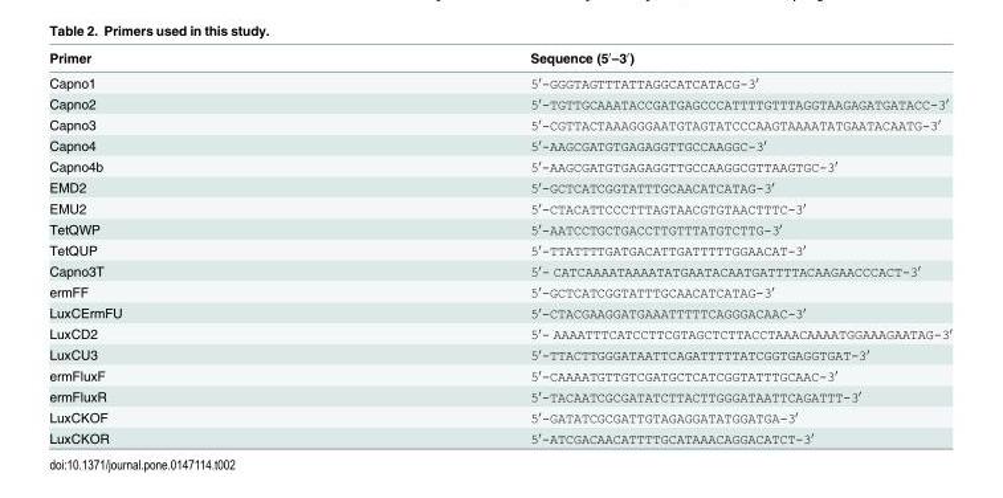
<table><thead><tr><td>Primer</td><td>Sequence (5′–3′)</td></tr></thead><tbody><tr><td>Capno1</td><td>5′-GGGTAGTTTATTAGGCATCATACG-3′</td></tr><tr><td>Capno2</td><td>5′-TGTTGCAAATACCGATGAGCCCATTTTGTTTAGGTAAGAGATGATACC-3′</td></tr><tr><td>Capno3</td><td>5′-CGTTACTAAAGGGAATGTAGTATCCCAAGTAAAATATGAATACAATG-3′</td></tr><tr><td>Capno4</td><td>5′-AAGCGATGTGAGAGGTTGCCAAGGC-3′</td></tr><tr><td>Capno4b</td><td>5′-AAGCGATGTGAGAGGTTGCCAAGGCGTTAAGTGC-3′</td></tr><tr><td>EMD2</td><td>5′-GCTCATCGGTATTTGCAACATCATAG-3′</td></tr><tr><td>EMU2</td><td>5′-CTACATTCCCTTTAGTAACGTGTAACTTTC-3′</td></tr><tr><td>TetQWP</td><td>5′-AATCCTGCTGACCTTGTTTATGTCTTG-3′</td></tr><tr><td>TetQUP</td><td>5′-TTATTTTGATGACATTGATTTTTGGAACAT-3′</td></tr><tr><td>Capno3T</td><td>5′- CATCAAAATAAAATATGAATACAATGATTTTACAAGAACCCACT-3′</td></tr><tr><td>ermFF</td><td>5′-GCTCATCGGTATTTGCAACATCATAG-3′</td></tr><tr><td>LuxCErmFU</td><td>5′-CTACGAAGGATGAAATTTTTCAGGGACAAC-3′</td></tr><tr><td>LuxCD2</td><td>5′- AAAATTTCATCCTTCGTAGCTCTTACCTAAACAAAATGGAAAGAATAG-3′</td></tr><tr><td>LuxCU3</td><td>5′-TTACTTGGGATAATTCAGATTTTTATCGGTGAGGTGAT-3′</td></tr><tr><td>ermFluxF</td><td>5′-CAAAATGTTGTCGATGCTCATCGGTATTTGCAAC-3′</td></tr><tr><td>ermFluxR</td><td>5′-TACAATCGCGATATCTTACTTGGGATAATTCAGATTT-3′</td></tr><tr><td>LuxCKOF</td><td>5′-GATATCGCGATTGTAGAGGATATGGATGA-3′</td></tr><tr><td>LuxCKOR</td><td>5′-ATCGACAACATTTTGCATAAACAGGACATCT-3′</td></tr></tbody></table>